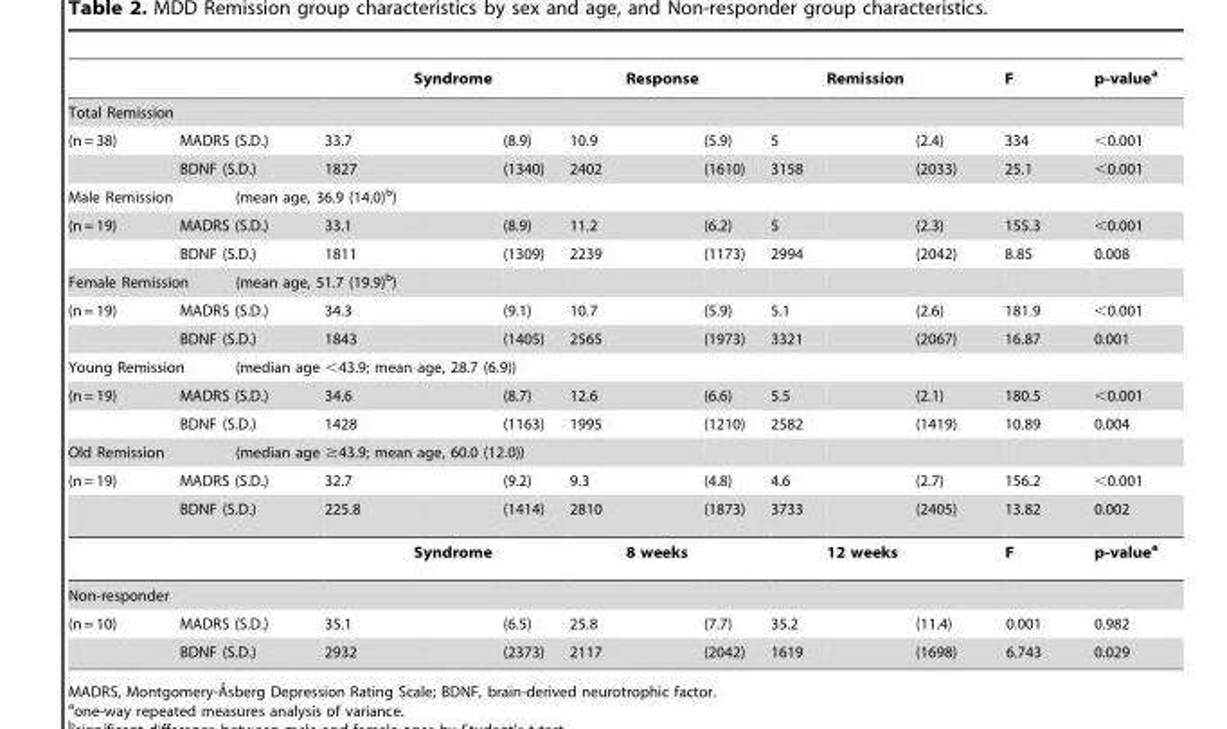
<table><thead><tr><td></td><td></td><td></td><td></td><td>Syndrome</td><td></td><td></td><td>Response</td><td></td><td></td><td>Remission</td><td></td><td>F</td><td>p-value<sup>a</sup></td></tr></thead><tbody><tr><td colspan="14">Total Remission</td></tr><tr><td rowspan="2">(n = 38)</td><td colspan="2">MADRS (S.D.)</td><td>33.7</td><td></td><td>(8.9)</td><td>10.9</td><td></td><td>(5.9)</td><td>5</td><td></td><td>(2.4)</td><td>334</td><td>&lt;0.001</td></tr><tr><td colspan="2">BDNF (S.D.)</td><td>1827</td><td></td><td>(1340)</td><td>2402</td><td></td><td>(1610)</td><td>3158</td><td></td><td>(2033)</td><td>25.1</td><td>&lt;0.001</td></tr><tr><td colspan="2">Male Remission</td><td colspan="2">(mean age, 36.9 (14.0)<sup>b</sup>)</td><td></td><td></td><td></td><td></td><td></td><td></td><td></td><td></td><td></td><td></td></tr><tr><td rowspan="2">(n = 19)</td><td colspan="2">MADRS (S.D.)</td><td>33.1</td><td></td><td>(8.9)</td><td>11.2</td><td></td><td>(6.2)</td><td>5</td><td></td><td>(2.3)</td><td>155.3</td><td>&lt;0.001</td></tr><tr><td colspan="2">BDNF (S.D.)</td><td>1811</td><td></td><td>(1309)</td><td>2239</td><td></td><td>(1173)</td><td>2994</td><td></td><td>(2042)</td><td>8.85</td><td>0.008</td></tr><tr><td colspan="2">Female Remission</td><td colspan="2">(mean age, 51.7 (19.9)<sup>b</sup>)</td><td></td><td></td><td></td><td></td><td></td><td></td><td></td><td></td><td></td><td></td></tr><tr><td rowspan="2">(n = 19)</td><td colspan="2">MADRS (S.D.)</td><td>34.3</td><td></td><td>(9.1)</td><td>10.7</td><td></td><td>(5.9)</td><td>5.1</td><td></td><td>(2.6)</td><td>181.9</td><td>&lt;0.001</td></tr><tr><td colspan="2">BDNF (S.D.)</td><td>1843</td><td></td><td>(1405)</td><td>2565</td><td></td><td>(1973)</td><td>3321</td><td></td><td>(2067)</td><td>16.87</td><td>0.001</td></tr><tr><td colspan="2">Young Remission</td><td colspan="4">(median age &lt;43.9; mean age, 28.7 (6.9))</td><td></td><td></td><td></td><td></td><td></td><td></td><td></td><td></td></tr><tr><td rowspan="2">(n = 19)</td><td colspan="2">MADRS (S.D.)</td><td>34.6</td><td></td><td>(8.7)</td><td>12.6</td><td></td><td>(6.6)</td><td>5.5</td><td></td><td>(2.1)</td><td>180.5</td><td>&lt;0.001</td></tr><tr><td colspan="2">BDNF (S.D.)</td><td>1428</td><td></td><td>(1163)</td><td>1995</td><td></td><td>(1210)</td><td>2582</td><td></td><td>(1419)</td><td>10.89</td><td>0.004</td></tr><tr><td colspan="2">Old Remission</td><td colspan="5">(median age ≥43.9; mean age, 60.0 (12.0))</td><td></td><td></td><td></td><td></td><td></td><td></td><td></td></tr><tr><td rowspan="3">(n = 19)</td><td colspan="2">MADRS (S.D.)</td><td>32.7</td><td></td><td>(9.2)</td><td>9.3</td><td></td><td>(4.8)</td><td>4.6</td><td></td><td>(2.7)</td><td>156.2</td><td>&lt;0.001</td></tr><tr><td colspan="2">BDNF (S.D.)</td><td>225.8</td><td></td><td>(1414)</td><td>2810</td><td></td><td>(1873)</td><td>3733</td><td></td><td>(2405)</td><td>13.82</td><td>0.002</td></tr><tr><td></td><td></td><td></td><td>Syndrome</td><td></td><td></td><td>8 weeks</td><td></td><td></td><td>12 weeks</td><td></td><td>F</td><td>p-valuea</td></tr><tr><td colspan="14">Non-responder</td></tr><tr><td rowspan="2">(n = 10)</td><td colspan="2">MADRS (S.D.)</td><td>35.1</td><td></td><td>(6.5)</td><td>25.8</td><td></td><td>(7.7)</td><td>35.2</td><td></td><td>(11.4)</td><td>0.001</td><td>0.982</td></tr><tr><td colspan="2">BDNF (S.D.)</td><td>2932</td><td></td><td>(2373)</td><td>2117</td><td></td><td>(2042)</td><td>1619</td><td></td><td>(1698)</td><td>6.743</td><td>0.029</td></tr></tbody></table>